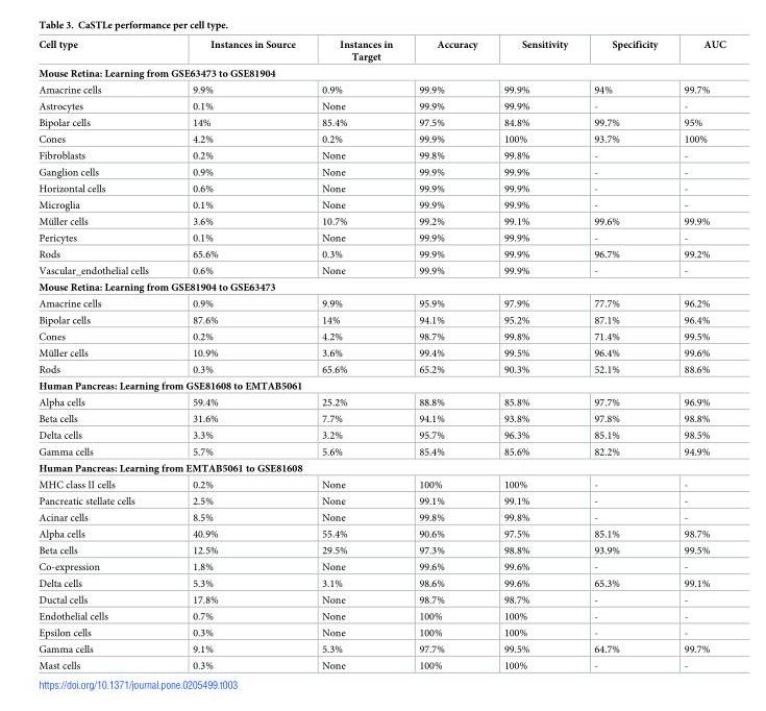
<table><thead><tr><td>Cell type</td><td>Instances in Source</td><td>Instances in Target</td><td>Accuracy</td><td>Sensitivity</td><td>Specificity</td><td>AUC</td></tr></thead><tbody><tr><td colspan="7">Mouse Retina: Learning from GSE63473 to GSE81904</td></tr><tr><td>Amacrine cells</td><td>9.9%</td><td>0.9%</td><td>99.9%</td><td>99.9%</td><td>94%</td><td>99.7%</td></tr><tr><td>Astrocytes</td><td>0.1%</td><td>None</td><td>99.9%</td><td>99.9%</td><td>-</td><td>-</td></tr><tr><td>Bipolar cells</td><td>14%</td><td>85.4%</td><td>97.5%</td><td>84.8%</td><td>99.7%</td><td>95%</td></tr><tr><td>Cones</td><td>4.2%</td><td>0.2%</td><td>99.9%</td><td>100%</td><td>93.7%</td><td>100%</td></tr><tr><td>Fibroblasts</td><td>0.2%</td><td>None</td><td>99.8%</td><td>99.8%</td><td>-</td><td>-</td></tr><tr><td>Ganglion cells</td><td>0.9%</td><td>None</td><td>99.9%</td><td>99.9%</td><td>-</td><td>-</td></tr><tr><td>Horizontal cells</td><td>0.6%</td><td>None</td><td>99.9%</td><td>99.9%</td><td>-</td><td>-</td></tr><tr><td>Microglia</td><td>0.1%</td><td>None</td><td>99.9%</td><td>99.9%</td><td>-</td><td>-</td></tr><tr><td>Mu¨ller cells</td><td>3.6%</td><td>10.7%</td><td>99.2%</td><td>99.1%</td><td>99.6%</td><td>99.9%</td></tr><tr><td>Pericytes</td><td>0.1%</td><td>None</td><td>99.9%</td><td>99.9%</td><td>-</td><td>-</td></tr><tr><td>Rods</td><td>65.6%</td><td>0.3%</td><td>99.9%</td><td>99.9%</td><td>96.7%</td><td>99.2%</td></tr><tr><td>Vascular_endothelial cells</td><td>0.6%</td><td>None</td><td>99.9%</td><td>99.9%</td><td>-</td><td>-</td></tr><tr><td colspan="7">Mouse Retina: Learning from GSE81904 to GSE63473</td></tr><tr><td>Amacrine cells</td><td>0.9%</td><td>9.9%</td><td>95.9%</td><td>97.9%</td><td>77.7%</td><td>96.2%</td></tr><tr><td>Bipolar cells</td><td>87.6%</td><td>14%</td><td>94.1%</td><td>95.2%</td><td>87.1%</td><td>96.4%</td></tr><tr><td>Cones</td><td>0.2%</td><td>4.2%</td><td>98.7%</td><td>99.8%</td><td>71.4%</td><td>99.5%</td></tr><tr><td>Mu¨ller cells</td><td>10.9%</td><td>3.6%</td><td>99.4%</td><td>99.5%</td><td>96.4%</td><td>99.6%</td></tr><tr><td>Rods</td><td>0.3%</td><td>65.6%</td><td>65.2%</td><td>90.3%</td><td>52.1%</td><td>88.6%</td></tr><tr><td colspan="7">Human Pancreas: Learning from GSE81608 to EMTAB5061</td></tr><tr><td>Alpha cells</td><td>59.4%</td><td>25.2%</td><td>88.8%</td><td>85.8%</td><td>97.7%</td><td>96.9%</td></tr><tr><td>Beta cells</td><td>31.6%</td><td>7.7%</td><td>94.1%</td><td>93.8%</td><td>97.8%</td><td>98.8%</td></tr><tr><td>Delta cells</td><td>3.3%</td><td>3.2%</td><td>95.7%</td><td>96.3%</td><td>85.1%</td><td>98.5%</td></tr><tr><td>Gamma cells</td><td>5.7%</td><td>5.6%</td><td>85.4%</td><td>85.6%</td><td>82.2%</td><td>94.9%</td></tr><tr><td colspan="7">Human Pancreas: Learning from EMTAB5061 to GSE81608</td></tr><tr><td>MHC class II cells</td><td>0.2%</td><td>None</td><td>100%</td><td>100%</td><td>-</td><td>-</td></tr><tr><td>Pancreatic stellate cells</td><td>2.5%</td><td>None</td><td>99.1%</td><td>99.1%</td><td>-</td><td>-</td></tr><tr><td>Acinar cells</td><td>8.5%</td><td>None</td><td>99.8%</td><td>99.8%</td><td>-</td><td>-</td></tr><tr><td>Alpha cells</td><td>40.9%</td><td>55.4%</td><td>90.6%</td><td>97.5%</td><td>85.1%</td><td>98.7%</td></tr><tr><td>Beta cells</td><td>12.5%</td><td>29.5%</td><td>97.3%</td><td>98.8%</td><td>93.9%</td><td>99.5%</td></tr><tr><td>Co-expression</td><td>1.8%</td><td>None</td><td>99.6%</td><td>99.6%</td><td>-</td><td>-</td></tr><tr><td>Delta cells</td><td>5.3%</td><td>3.1%</td><td>98.6%</td><td>99.6%</td><td>65.3%</td><td>99.1%</td></tr><tr><td>Ductal cells</td><td>17.8%</td><td>None</td><td>98.7%</td><td>98.7%</td><td>-</td><td>-</td></tr><tr><td>Endothelial cells</td><td>0.7%</td><td>None</td><td>100%</td><td>100%</td><td>-</td><td>-</td></tr><tr><td>Epsilon cells</td><td>0.3%</td><td>None</td><td>100%</td><td>100%</td><td>-</td><td>-</td></tr><tr><td>Gamma cells</td><td>9.1%</td><td>5.3%</td><td>97.7%</td><td>99.5%</td><td>64.7%</td><td>99.7%</td></tr><tr><td>Mast cells</td><td>0.3%</td><td>None</td><td>100%</td><td>100%</td><td>-</td><td>-</td></tr></tbody></table>